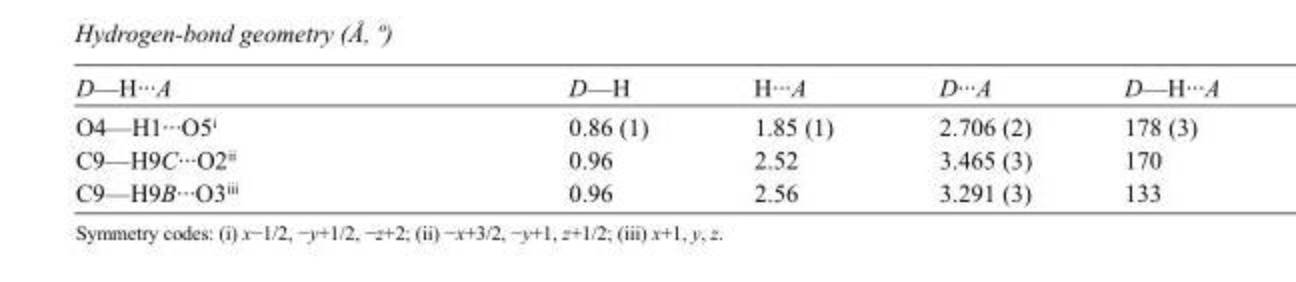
<table><tbody><tr><td>D—H···A</td><td>D—H</td><td>H···A</td><td>D···A</td><td>D—H···A</td></tr><tr><td>O4—H1···O5<sup>i</sup></td><td>0.86 (1)</td><td>1.85 (1)</td><td>2.706 (2)</td><td>178 (3)</td></tr><tr><td>C9—H9C···O2<sup>ii</sup></td><td>0.96</td><td>2.52</td><td>3.465 (3)</td><td>170</td></tr><tr><td>C9—H9B···O3<sup>iii</sup></td><td>0.96</td><td>2.56</td><td>3.291 (3)</td><td>133</td></tr></tbody></table>